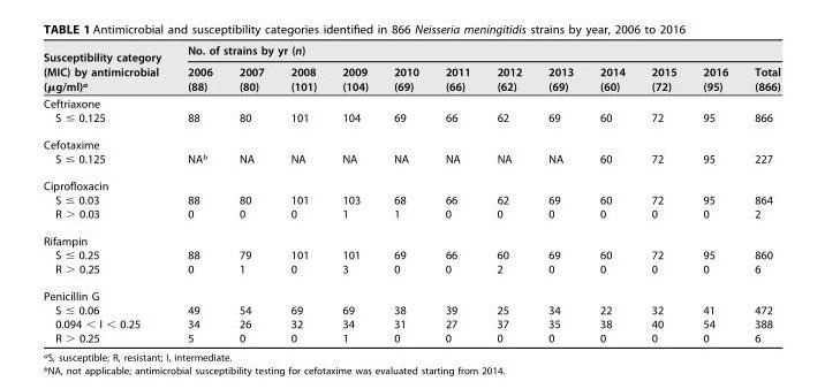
<table><thead><tr><td rowspan="2">Susceptibility category (MIC) by antimicrobial (μg/ml)<sup>a</sup></td><td colspan="12">No. of strains by yr (n)</td></tr><tr><td>2006 (88)</td><td>2007 (80)</td><td>2008 (101)</td><td>2009 (104)</td><td>2010 (69)</td><td>2011 (66)</td><td>2012 (62)</td><td>2013 (69)</td><td>2014 (60)</td><td>2015 (72)</td><td>2016 (95)</td><td>Total (866)</td></tr></thead><tbody><tr><td colspan="13">Ceftriaxone</td></tr><tr><td>S ≤ 0.125</td><td>88</td><td>80</td><td>101</td><td>104</td><td>69</td><td>66</td><td>62</td><td>69</td><td>60</td><td>72</td><td>95</td><td>866</td></tr><tr><td colspan="13">Cefotaxime</td></tr><tr><td>S ≤ 0.125</td><td>NA<sup>b</sup></td><td>NA</td><td>NA</td><td>NA</td><td>NA</td><td>NA</td><td>NA</td><td>NA</td><td>60</td><td>72</td><td>95</td><td>227</td></tr><tr><td colspan="13">Ciprofloxacin</td></tr><tr><td>S ≤ 0.03</td><td>88</td><td>80</td><td>101</td><td>103</td><td>68</td><td>66</td><td>62</td><td>69</td><td>60</td><td>72</td><td>95</td><td>864</td></tr><tr><td>R &gt; 0.03</td><td>0</td><td>0</td><td>0</td><td>1</td><td>1</td><td>0</td><td>0</td><td>0</td><td>0</td><td>0</td><td>0</td><td>2</td></tr><tr><td colspan="13">Rifampin</td></tr><tr><td>S ≤ 0.25</td><td>88</td><td>79</td><td>101</td><td>101</td><td>69</td><td>66</td><td>60</td><td>69</td><td>60</td><td>72</td><td>95</td><td>860</td></tr><tr><td>R &gt; 0.25</td><td>0</td><td>1</td><td>0</td><td>3</td><td>0</td><td>0</td><td>2</td><td>0</td><td>0</td><td>0</td><td>0</td><td>6</td></tr><tr><td colspan="13">Penicillin G</td></tr><tr><td>S ≤ 0.06</td><td>49</td><td>54</td><td>69</td><td>69</td><td>38</td><td>39</td><td>25</td><td>34</td><td>22</td><td>32</td><td>41</td><td>472</td></tr><tr><td>0.094 &lt; I &lt; 0.25</td><td>34</td><td>26</td><td>32</td><td>34</td><td>31</td><td>27</td><td>37</td><td>35</td><td>38</td><td>40</td><td>54</td><td>388</td></tr><tr><td>R &gt; 0.25</td><td>5</td><td>0</td><td>0</td><td>1</td><td>0</td><td>0</td><td>0</td><td>0</td><td>0</td><td>0</td><td>0</td><td>6</td></tr></tbody></table>